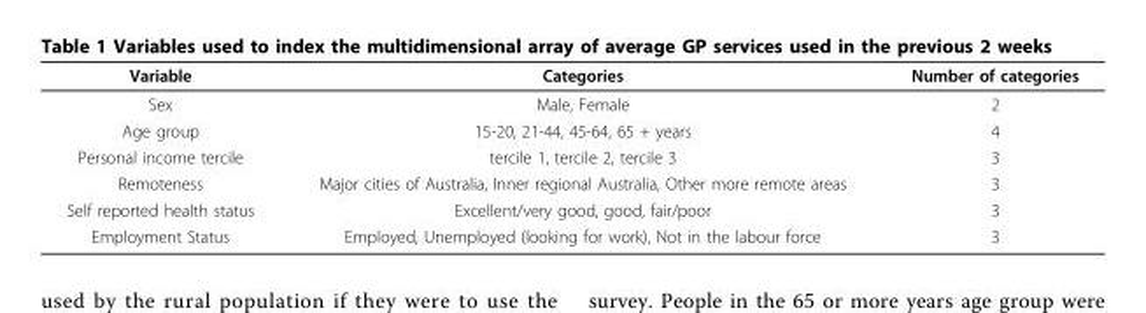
<table><thead><tr><td>Variable</td><td>Categories</td><td>Number of categories</td></tr></thead><tbody><tr><td>Sex</td><td>Male, Female</td><td>2</td></tr><tr><td>Age group</td><td>15-20, 21-44, 45-64, 65 + years</td><td>4</td></tr><tr><td>Personal income tercile</td><td>tercile 1, tercile 2, tercile 3</td><td>3</td></tr><tr><td>Remoteness</td><td>Major cities of Australia, Inner regional Australia, Other more remote areas</td><td>3</td></tr><tr><td>Self reported health status</td><td>Excellent/very good, good, fair/poor</td><td>3</td></tr><tr><td>Employment Status</td><td>Employed, Unemployed (looking for work), Not in the labour force</td><td>3</td></tr></tbody></table>